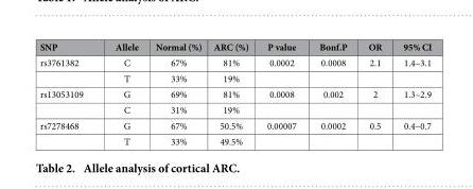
<table><thead><tr><td>SNP</td><td>Allele</td><td>Normal (%)</td><td>ARC (%)</td><td>P value</td><td>Bonf.P</td><td>OR</td><td>95% CI</td></tr></thead><tbody><tr><td rowspan="2">rs3761382</td><td>C</td><td>67%</td><td>81%</td><td>0.0002</td><td>0.0008</td><td>2.1</td><td>1.4–3.1</td></tr><tr><td>T</td><td>33%</td><td>19%</td><td></td><td></td><td></td><td></td></tr><tr><td rowspan="2">rs13053109</td><td>G</td><td>69%</td><td>81%</td><td>0.0008</td><td>0.002</td><td>2</td><td>1.3–2.9</td></tr><tr><td>C</td><td>31%</td><td>19%</td><td></td><td></td><td></td><td></td></tr><tr><td rowspan="2">rs7278468</td><td>G</td><td>67%</td><td>50.5%</td><td>0.00007</td><td>0.0002</td><td>0.5</td><td>0.4–0.7</td></tr><tr><td>T</td><td>33%</td><td>49.5%</td><td></td><td></td><td></td><td></td></tr></tbody></table>